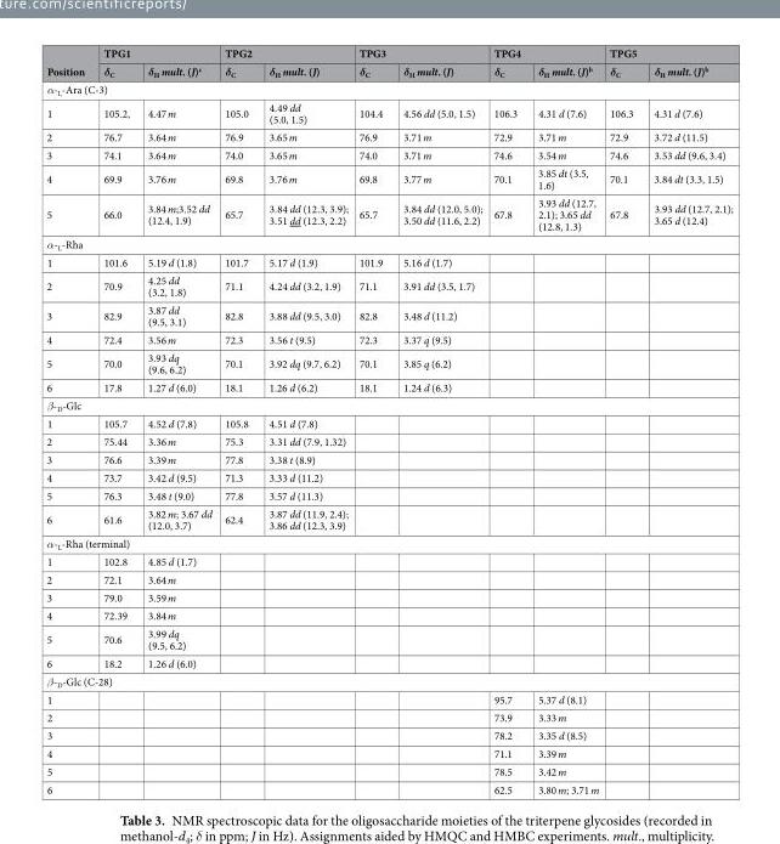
<table><thead><tr><td rowspan="2">Position</td><td colspan="2">TPG1</td><td colspan="2">TPG2</td><td colspan="2">TPG3</td><td colspan="2">TPG4</td><td colspan="2">TPG5</td></tr><tr><td>δ<sub>C</sub></td><td>δ<sub>H</sub> mult. (J)<sup>c</sup></td><td>δ<sub>C</sub></td><td>δ<sub>H</sub> mult. (J)</td><td>δ<sub>C</sub></td><td>δ<sub>H</sub> mult. (J)</td><td>δ<sub>C</sub></td><td>δ<sub>H</sub> mult. (J)<sup>b</sup></td><td>δ<sub>C</sub></td><td>δ<sub>H</sub> mult. (J)<sup>b</sup></td></tr></thead><tbody><tr><td colspan="11">α-<sub>L</sub>-Ara (C-3)</td></tr><tr><td>1</td><td>105.2,</td><td>4.47 m</td><td>105.0</td><td>4.49 dd (5.0, 1.5)</td><td>104.4</td><td>4.56 dd (5.0, 1.5)</td><td>106.3</td><td>4.31 d (7.6)</td><td>106.3</td><td>4.31 d (7.6)</td></tr><tr><td>2</td><td>76.7</td><td>3.64 m</td><td>76.9</td><td>3.65 m</td><td>76.9</td><td>3.71 m</td><td>72.9</td><td>3.71 m</td><td>72.9</td><td>3.72 d (11.5)</td></tr><tr><td>3</td><td>74.1</td><td>3.64 m</td><td>74.0</td><td>3.65 m</td><td>74.0</td><td>3.71 m</td><td>74.6</td><td>3.54 m</td><td>74.6</td><td>3.53 dd (9.6, 3.4)</td></tr><tr><td>4</td><td>69.9</td><td>3.76 m</td><td>69.8</td><td>3.76 m</td><td>69.8</td><td>3.77 m</td><td>70.1</td><td>3.85 dt (3.5, 1.6)</td><td>70.1</td><td>3.84 dt (3.3, 1.5)</td></tr><tr><td>5</td><td>66.0</td><td>3.84 m;3.52 dd (12.4, 1.9)</td><td>65.7</td><td>3.84 dd (12.3, 3.9); 3.51 dd (12.3, 2.2)</td><td>65.7</td><td>3.84 dd (12.0, 5.0); 3.50 dd (11.6, 2.2)</td><td>67.8</td><td>3.93 dd (12.7, 2.1); 3.65 dd (12.8, 1.3)</td><td>67.8</td><td>3.93 dd (12.7, 2.1); 3.65 d (12.4)</td></tr><tr><td colspan="11">α-<sub>L</sub>-Rha</td></tr><tr><td>1</td><td>101.6</td><td>5.19 d (1.8)</td><td>101.7</td><td>5.17 d (1.9)</td><td>101.9</td><td>5.16 d (1.7)</td><td></td><td></td><td></td><td></td></tr><tr><td>2</td><td>70.9</td><td>4.25 dd (3.2, 1.8)</td><td>71.1</td><td>4.24 dd (3.2, 1.9)</td><td>71.1</td><td>3.91 dd (3.5, 1.7)</td><td></td><td></td><td></td><td></td></tr><tr><td>3</td><td>82.9</td><td>3.87 dd (9.5, 3.1)</td><td>82.8</td><td>3.88 dd (9.5, 3.0)</td><td>82.8</td><td>3.48 d (11.2)</td><td></td><td></td><td></td><td></td></tr><tr><td>4</td><td>72.4</td><td>3.56 m</td><td>72.3</td><td>3.56 t (9.5)</td><td>72.3</td><td>3.37 q (9.5)</td><td></td><td></td><td></td><td></td></tr><tr><td>5</td><td>70.0</td><td>3.93 dq (9.6, 6.2)</td><td>70.1</td><td>3.92 dq (9.7, 6.2)</td><td>70.1</td><td>3.85 q (6.2)</td><td></td><td></td><td></td><td></td></tr><tr><td>6</td><td>17.8</td><td>1.27 d (6.0)</td><td>18.1</td><td>1.26 d (6.2)</td><td>18.1</td><td>1.24 d (6.3)</td><td></td><td></td><td></td><td></td></tr><tr><td colspan="11">β-<sub>D</sub>-Glc</td></tr><tr><td>1</td><td>105.7</td><td>4.52 d (7.8)</td><td>105.8</td><td>4.51 d (7.8)</td><td></td><td></td><td></td><td></td><td></td><td></td></tr><tr><td>2</td><td>75.44</td><td>3.36 m</td><td>75.3</td><td>3.31 dd (7.9, 1.32)</td><td></td><td></td><td></td><td></td><td></td><td></td></tr><tr><td>3</td><td>76.6</td><td>3.39 m</td><td>77.8</td><td>3.38 t (8.9)</td><td></td><td></td><td></td><td></td><td></td><td></td></tr><tr><td>4</td><td>73.7</td><td>3.42 d (9.5)</td><td>71.3</td><td>3.33 d (11.2)</td><td></td><td></td><td></td><td></td><td></td><td></td></tr><tr><td>5</td><td>76.3</td><td>3.48 t (9.0)</td><td>77.8</td><td>3.57 d (11.3)</td><td></td><td></td><td></td><td></td><td></td><td></td></tr><tr><td>6</td><td>61.6</td><td>3.82 m; 3.67 dd (12.0, 3.7)</td><td>62.4</td><td>3.87 dd (11.9, 2.4); 3.86 dd (12.3, 3.9)</td><td></td><td></td><td></td><td></td><td></td><td></td></tr><tr><td colspan="11">α-<sub>L</sub>-Rha (terminal)</td></tr><tr><td>1</td><td>102.8</td><td>4.85 d (1.7)</td><td></td><td></td><td></td><td></td><td></td><td></td><td></td><td></td></tr><tr><td>2</td><td>72.1</td><td>3.64 m</td><td></td><td></td><td></td><td></td><td></td><td></td><td></td><td></td></tr><tr><td>3</td><td>79.0</td><td>3.59 m</td><td></td><td></td><td></td><td></td><td></td><td></td><td></td><td></td></tr><tr><td>4</td><td>72.39</td><td>3.84 m</td><td></td><td></td><td></td><td></td><td></td><td></td><td></td><td></td></tr><tr><td>5</td><td>70.6</td><td>3.99 dq (9.5, 6.2)</td><td></td><td></td><td></td><td></td><td></td><td></td><td></td><td></td></tr><tr><td>6</td><td>18.2</td><td>1.26 d (6.0)</td><td></td><td></td><td></td><td></td><td></td><td></td><td></td><td></td></tr><tr><td colspan="11">β-<sub>D</sub>-Glc (C-28)</td></tr><tr><td>1</td><td></td><td></td><td></td><td></td><td></td><td></td><td>95.7</td><td>5.37 d (8.1)</td><td></td><td></td></tr><tr><td>2</td><td></td><td></td><td></td><td></td><td></td><td></td><td>73.9</td><td>3.33 m</td><td></td><td></td></tr><tr><td>3</td><td></td><td></td><td></td><td></td><td></td><td></td><td>78.2</td><td>3.35 d (8.5)</td><td></td><td></td></tr><tr><td>4</td><td></td><td></td><td></td><td></td><td></td><td></td><td>71.1</td><td>3.39 m</td><td></td><td></td></tr><tr><td>5</td><td></td><td></td><td></td><td></td><td></td><td></td><td>78.5</td><td>3.42 m</td><td></td><td></td></tr><tr><td>6</td><td></td><td></td><td></td><td></td><td></td><td></td><td>62.5</td><td>3.80 m; 3.71 m</td><td></td><td></td></tr></tbody></table>